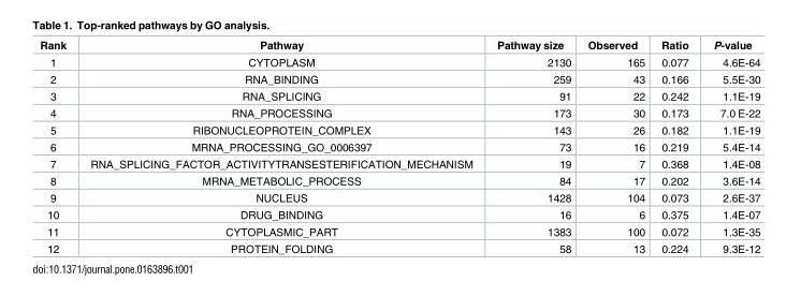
<table><thead><tr><td>Rank</td><td>Pathway</td><td>Pathway size</td><td>Observed</td><td>Ratio</td><td>P-value</td></tr></thead><tbody><tr><td>1</td><td>CYTOPLASM</td><td>2130</td><td>165</td><td>0.077</td><td>4.6E-64</td></tr><tr><td>2</td><td>RNA_BINDING</td><td>259</td><td>43</td><td>0.166</td><td>5.5E-30</td></tr><tr><td>3</td><td>RNA_SPLICING</td><td>91</td><td>22</td><td>0.242</td><td>1.1E-19</td></tr><tr><td>4</td><td>RNA_PROCESSING</td><td>173</td><td>30</td><td>0.173</td><td>7.0 E-22</td></tr><tr><td>5</td><td>RIBONUCLEOPROTEIN_COMPLEX</td><td>143</td><td>26</td><td>0.182</td><td>1.1E-19</td></tr><tr><td>6</td><td>MRNA_PROCESSING_GO_0006397</td><td>73</td><td>16</td><td>0.219</td><td>5.4E-14</td></tr><tr><td>7</td><td>RNA_SPLICING_FACTOR_ACTIVITYTRANSESTERIFICATION_MECHANISM</td><td>19</td><td>7</td><td>0.368</td><td>1.4E-08</td></tr><tr><td>8</td><td>MRNA_METABOLIC_PROCESS</td><td>84</td><td>17</td><td>0.202</td><td>3.6E-14</td></tr><tr><td>9</td><td>NUCLEUS</td><td>1428</td><td>104</td><td>0.073</td><td>2.6E-37</td></tr><tr><td>10</td><td>DRUG_BINDING</td><td>16</td><td>6</td><td>0.375</td><td>1.4E-07</td></tr><tr><td>11</td><td>CYTOPLASMIC_PART</td><td>1383</td><td>100</td><td>0.072</td><td>1.3E-35</td></tr><tr><td>12</td><td>PROTEIN_FOLDING</td><td>58</td><td>13</td><td>0.224</td><td>9.3E-12</td></tr></tbody></table>